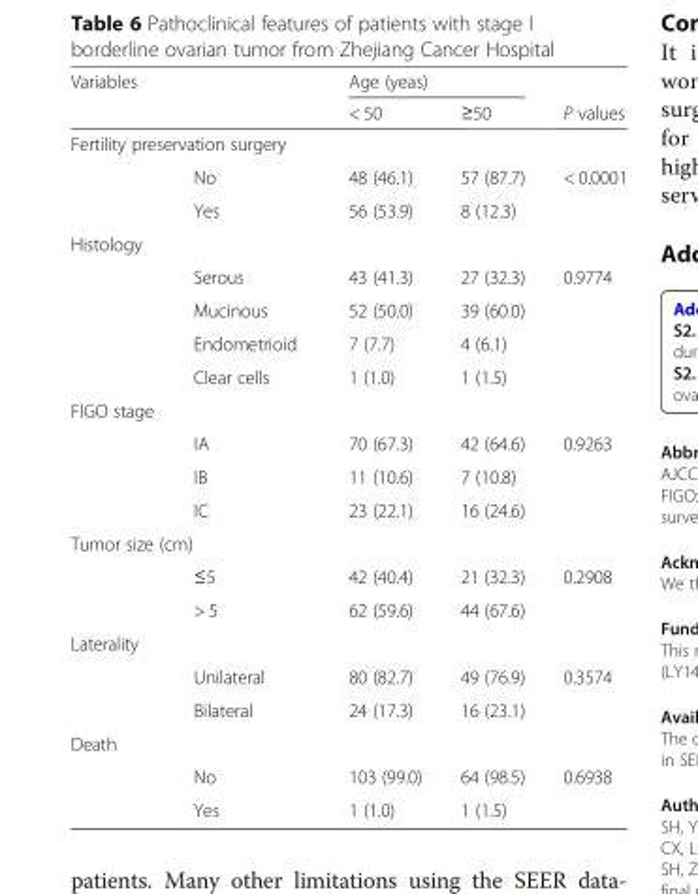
<table><thead><tr><td rowspan="2">Variables</td><td rowspan="2"></td><td colspan="2">Age (yeas)</td><td rowspan="2">P values</td></tr><tr><td>&lt; 50</td><td>≥50</td></tr></thead><tbody><tr><td colspan="5">Fertility preservation surgery</td></tr><tr><td></td><td>No</td><td>48 (46.1)</td><td>57 (87.7)</td><td>&lt; 0.0001</td></tr><tr><td></td><td>Yes</td><td>56 (53.9)</td><td>8 (12.3)</td><td></td></tr><tr><td colspan="5">Histology</td></tr><tr><td></td><td>Serous</td><td>43 (41.3)</td><td>27 (32.3)</td><td>0.9774</td></tr><tr><td></td><td>Mucinous</td><td>52 (50.0)</td><td>39 (60.0)</td><td></td></tr><tr><td></td><td>Endometrioid</td><td>7 (7.7)</td><td>4 (6.1)</td><td></td></tr><tr><td></td><td>Clear cells</td><td>1 (1.0)</td><td>1 (1.5)</td><td></td></tr><tr><td colspan="5">FIGO stage</td></tr><tr><td></td><td>IA</td><td>70 (67.3)</td><td>42 (64.6)</td><td>0.9263</td></tr><tr><td></td><td>IB</td><td>11 (10.6)</td><td>7 (10.8)</td><td></td></tr><tr><td></td><td>IC</td><td>23 (22.1)</td><td>16 (24.6)</td><td></td></tr><tr><td colspan="5">Tumor size (cm)</td></tr><tr><td></td><td>≤5</td><td>42 (40.4)</td><td>21 (32.3)</td><td>0.2908</td></tr><tr><td></td><td>&gt; 5</td><td>62 (59.6)</td><td>44 (67.6)</td><td></td></tr><tr><td colspan="5">Laterality</td></tr><tr><td></td><td>Unilateral</td><td>80 (82.7)</td><td>49 (76.9)</td><td>0.3574</td></tr><tr><td></td><td>Bilateral</td><td>24 (17.3)</td><td>16 (23.1)</td><td></td></tr><tr><td colspan="5">Death</td></tr><tr><td></td><td>No</td><td>103 (99.0)</td><td>64 (98.5)</td><td>0.6938</td></tr><tr><td></td><td>Yes</td><td>1 (1.0)</td><td>1 (1.5)</td><td></td></tr></tbody></table>